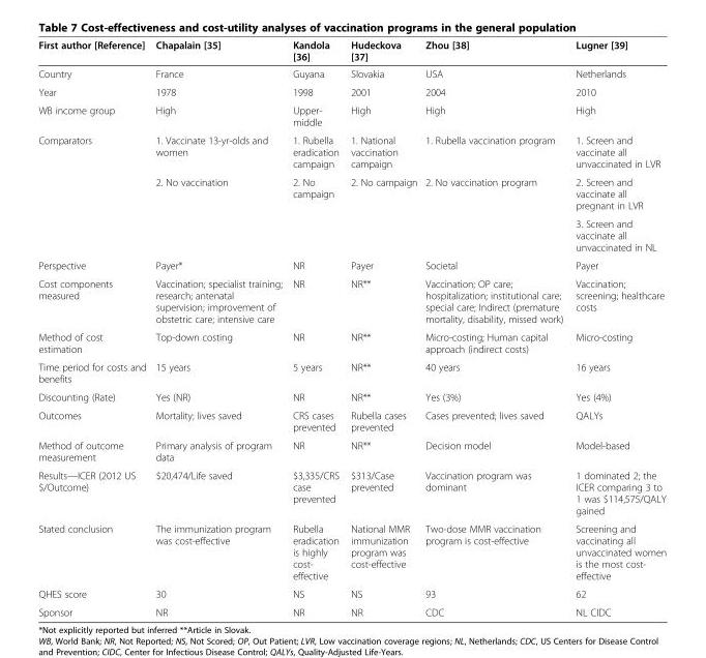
<table><thead><tr><td>First author [Reference]</td><td>Chapalain [35]</td><td>Kandola [36]</td><td>Hudeckova [37]</td><td>Zhou [38]</td><td>Lugner [39]</td></tr></thead><tbody><tr><td>Country</td><td>France</td><td>Guyana</td><td>Slovakia</td><td>USA</td><td>Netherlands</td></tr><tr><td>Year</td><td>1978</td><td>1998</td><td>2001</td><td>2004</td><td>2010</td></tr><tr><td>WB income group</td><td>High</td><td>Upper- middle</td><td>High</td><td>High</td><td>High</td></tr><tr><td rowspan="3">Comparators</td><td>1. Vaccinate 13-yr-olds and women</td><td>1. Rubella eradication campaign</td><td>1. National vaccination campaign</td><td>1. Rubella vaccination program</td><td>1. Screen and vaccinate all unvaccinated in LVR</td></tr><tr><td>2. No vaccination</td><td>2. No campaign</td><td>2. No campaign</td><td>2. No vaccination program</td><td>2. Screen and vaccinate all pregnant in LVR</td></tr><tr><td></td><td></td><td></td><td></td><td>3. Screen and vaccinate all unvaccinated in NL</td></tr><tr><td>Perspective</td><td>Payer*</td><td>NR</td><td>Payer</td><td>Societal</td><td>Payer</td></tr><tr><td>Cost components measured</td><td>Vaccination; specialist training; research; antenatal supervision; improvement of obstetric care; intensive care</td><td>NR</td><td>NR**</td><td>Vaccination; OP care; hospitalization; institutional care; special care; Indirect (premature mortality, disability, missed work)</td><td>Vaccination; screening; healthcare costs</td></tr><tr><td>Method of cost estimation</td><td>Top-down costing</td><td>NR</td><td>NR**</td><td>Micro-costing; Human capital approach (indirect costs)</td><td>Micro-costing</td></tr><tr><td>Time period for costs and benefits</td><td>15 years</td><td>5 years</td><td>NR**</td><td>40 years</td><td>16 years</td></tr><tr><td>Discounting (Rate)</td><td>Yes (NR)</td><td>NR</td><td>NR**</td><td>Yes (3%)</td><td>Yes (4%)</td></tr><tr><td>Outcomes</td><td>Mortality; lives saved</td><td>CRS cases prevented</td><td>Rubella cases prevented</td><td>Cases prevented; lives saved</td><td>QALYs</td></tr><tr><td>Method of outcome measurement</td><td>Primary analysis of program data</td><td>NR</td><td>NR**</td><td>Decision model</td><td>Model-based</td></tr><tr><td>Results—ICER (2012 US $/Outcome)</td><td>$20,474/Life saved</td><td>$3,335/CRS case prevented</td><td>$313/Case prevented</td><td>Vaccination program was dominant</td><td>1 dominated 2; the ICER comparing 3 to 1 was $114,575/QALY gained</td></tr><tr><td>Stated conclusion</td><td>The immunization program was cost-effective</td><td>Rubella eradication is highly cost- effective</td><td>National MMR immunization program was cost-effective</td><td>Two-dose MMR vaccination program is cost-effective</td><td>Screening and vaccinating all unvaccinated women is the most cost- effective</td></tr><tr><td>QHES score</td><td>30</td><td>NS</td><td>NS</td><td>93</td><td>62</td></tr><tr><td>Sponsor</td><td>NR</td><td>NR</td><td>NR</td><td>CDC</td><td>NL CIDC</td></tr></tbody></table>